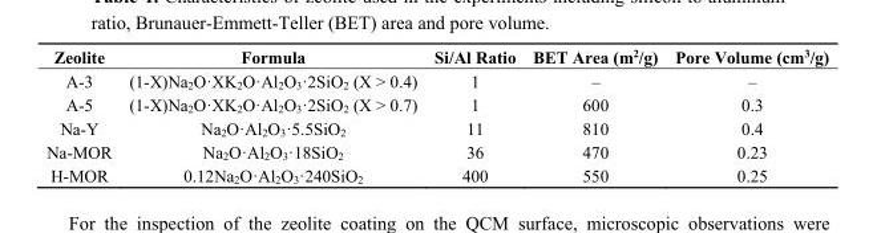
<table><thead><tr><td>Zeolite</td><td>Formula</td><td>Si/Al Ratio</td><td>BET Area (m<sup>2</sup>/g)</td><td>Pore Volume (cm<sup>3</sup>/g)</td></tr></thead><tbody><tr><td>A-3</td><td>(1-X)Na<sub>2</sub>O·XK<sub>2</sub>O·Al<sub>2</sub>O<sub>3</sub>·2SiO<sub>2</sub> (X &gt; 0.4)</td><td>1</td><td>–</td><td>–</td></tr><tr><td>A-5</td><td>(1-X)Na<sub>2</sub>O·XK<sub>2</sub>O·Al<sub>2</sub>O<sub>3</sub>·2SiO<sub>2</sub> (X &gt; 0.7)</td><td>1</td><td>600</td><td>0.3</td></tr><tr><td>Na-Y</td><td>Na<sub>2</sub>O·Al<sub>2</sub>O<sub>3</sub>·5.5SiO<sub>2</sub></td><td>11</td><td>810</td><td>0.4</td></tr><tr><td>Na-MOR</td><td>Na<sub>2</sub>O·Al<sub>2</sub>O<sub>3</sub>·18SiO<sub>2</sub></td><td>36</td><td>470</td><td>0.23</td></tr><tr><td>H-MOR</td><td>0.12Na<sub>2</sub>O·Al<sub>2</sub>O<sub>3</sub>·240SiO<sub>2</sub></td><td>400</td><td>550</td><td>0.25</td></tr></tbody></table>